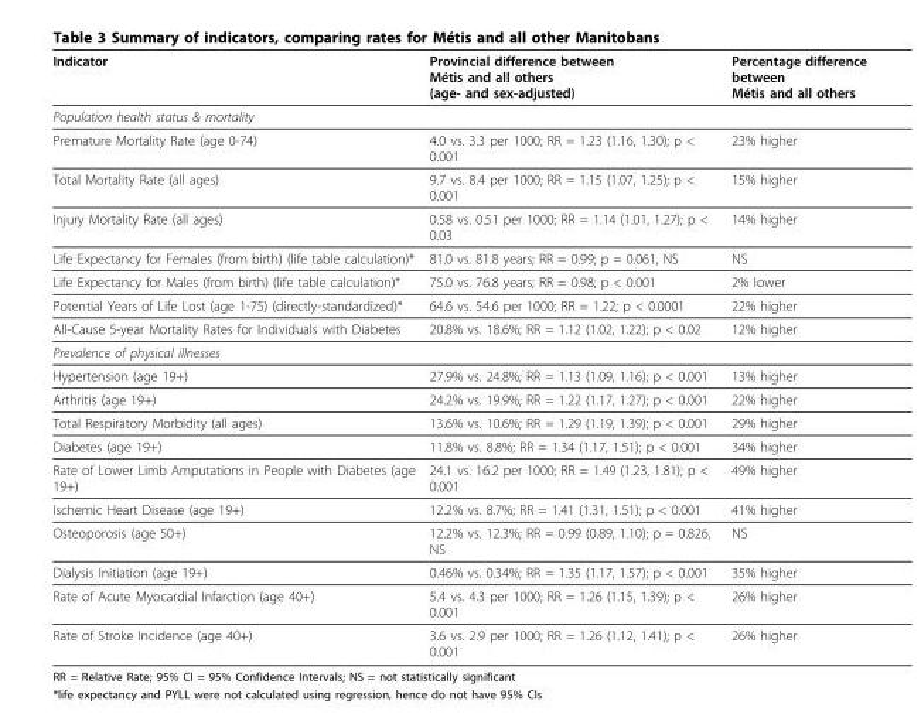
<table><thead><tr><td>Indicator</td><td>Provincial difference between Métis and all others (age- and sex-adjusted)</td><td>Percentage difference between Métis and all others</td></tr></thead><tbody><tr><td colspan="3">Population health status &amp; mortality</td></tr><tr><td>Premature Mortality Rate (age 0-74)</td><td>4.0 vs. 3.3 per 1000; RR = 1.23 (1.16, 1.30); p &lt; 0.001</td><td>23% higher</td></tr><tr><td>Total Mortality Rate (all ages)</td><td>9.7 vs. 8.4 per 1000; RR = 1.15 (1.07, 1.25); p &lt; 0.001</td><td>15% higher</td></tr><tr><td>Injury Mortality Rate (all ages)</td><td>0.58 vs. 0.51 per 1000; RR = 1.14 (1.01, 1.27); p &lt; 0.03</td><td>14% higher</td></tr><tr><td>Life Expectancy for Females (from birth) (life table calculation)*</td><td>81.0 vs. 81.8 years; RR = 0.99; p = 0.061, NS</td><td>NS</td></tr><tr><td>Life Expectancy for Males (from birth) (life table calculation)*</td><td>75.0 vs. 76.8 years; RR = 0.98; p &lt; 0.001</td><td>2% lower</td></tr><tr><td>Potential Years of Life Lost (age 1-75) (directly-standardized)*</td><td>64.6 vs. 54.6 per 1000; RR = 1.22; p &lt; 0.0001</td><td>22% higher</td></tr><tr><td>All-Cause 5-year Mortality Rates for Individuals with Diabetes</td><td>20.8% vs. 18.6%; RR = 1.12 (1.02, 1.22); p &lt; 0.02</td><td>12% higher</td></tr><tr><td colspan="3">Prevalence of physical illnesses</td></tr><tr><td>Hypertension (age 19+)</td><td>27.9% vs. 24.8%; RR = 1.13 (1.09, 1.16); p &lt; 0.001</td><td>13% higher</td></tr><tr><td>Arthritis (age 19+)</td><td>24.2% vs. 19.9%; RR = 1.22 (1.17, 1.27); p &lt; 0.001</td><td>22% higher</td></tr><tr><td>Total Respiratory Morbidity (all ages)</td><td>13.6% vs. 10.6%; RR = 1.29 (1.19, 1.39); p &lt; 0.001</td><td>29% higher</td></tr><tr><td>Diabetes (age 19+)</td><td>11.8% vs. 8.8%; RR = 1.34 (1.17, 1.51); p &lt; 0.001</td><td>34% higher</td></tr><tr><td>Rate of Lower Limb Amputations in People with Diabetes (age 19+)</td><td>24.1 vs. 16.2 per 1000; RR = 1.49 (1.23, 1.81); p &lt; 0.001</td><td>49% higher</td></tr><tr><td>Ischemic Heart Disease (age 19+)</td><td>12.2% vs. 8.7%; RR = 1.41 (1.31, 1.51); p &lt; 0.001</td><td>41% higher</td></tr><tr><td>Osteoporosis (age 50+)</td><td>12.2% vs. 12.3%; RR = 0.99 (0.89, 1.10); p = 0.826, NS</td><td>NS</td></tr><tr><td>Dialysis Initiation (age 19+)</td><td>0.46% vs. 0.34%; RR = 1.35 (1.17, 1.57); p &lt; 0.001</td><td>35% higher</td></tr><tr><td>Rate of Acute Myocardial Infarction (age 40+)</td><td>5.4 vs. 4.3 per 1000; RR = 1.26 (1.15, 1.39); p &lt; 0.001</td><td>26% higher</td></tr><tr><td>Rate of Stroke Incidence (age 40+)</td><td>3.6 vs. 2.9 per 1000; RR = 1.26 (1.12, 1.41); p &lt; 0.001</td><td>26% higher</td></tr></tbody></table>